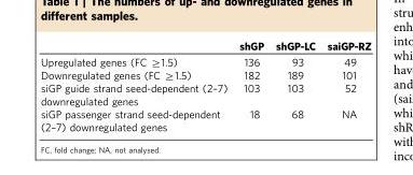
<table><thead><tr><td></td><td>shGP</td><td>shGP-LC</td><td>saiGP-RZ</td></tr></thead><tbody><tr><td>Upregulated genes (FC ⩾1.5)</td><td>136</td><td>93</td><td>49</td></tr><tr><td>Downregulated genes (FC ⩾1.5)</td><td>182</td><td>189</td><td>101</td></tr><tr><td>siGP guide strand seed-dependent (2–7) downregulated genes</td><td>103</td><td>103</td><td>52</td></tr><tr><td>siGP passenger strand seed-dependent (2–7) downregulated genes</td><td>18</td><td>68</td><td>NA</td></tr></tbody></table>